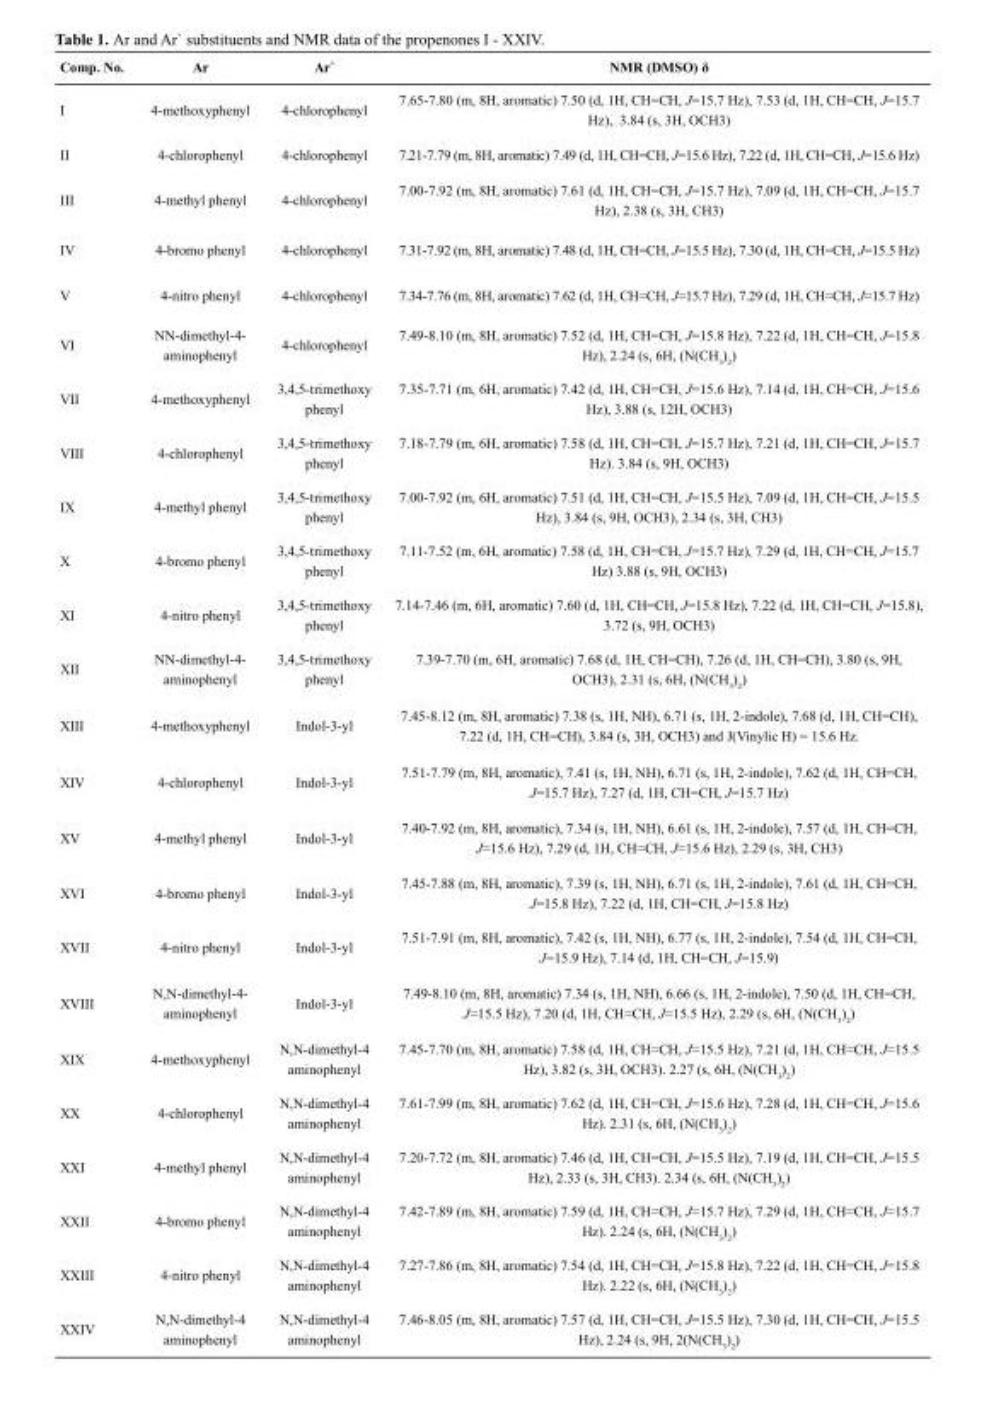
<table><thead><tr><td>Comp. No.</td><td>Ar</td><td>Ar`</td><td>NMR (DMSO) δ</td></tr></thead><tbody><tr><td>I</td><td>4-methoxyphenyl</td><td>4-chlorophenyl</td><td>7.65-7.80 (m, 8H, aromatic) 7.50 (d, 1H, CH=CH, J=15.7 Hz), 7.53 (d, 1H, CH=CH, J=15.7 Hz), 3.84 (s, 3H, OCH3)</td></tr><tr><td>II</td><td>4-chlorophenyl</td><td>4-chlorophenyl</td><td>7.21-7.79 (m, 8H, aromatic) 7.49 (d, 1H, CH=CH, J=15.6 Hz), 7.22 (d, 1H, CH=CH, J=15.6 Hz)</td></tr><tr><td>III</td><td>4-methyl phenyl</td><td>4-chlorophenyl</td><td>7.00-7.92 (m, 8H, aromatic) 7.61 (d, 1H, CH=CH, J=15.7 Hz), 7.09 (d, 1H, CH=CH, J=15.7 Hz), 2.38 (s, 3H, CH3)</td></tr><tr><td>IV</td><td>4-bromo phenyl</td><td>4-chlorophenyl</td><td>7.31-7.92 (m, 8H, aromatic) 7.48 (d, 1H, CH=CH, J=15.5 Hz), 7.30 (d, 1H, CH=CH, J=15.5 Hz)</td></tr><tr><td>V</td><td>4-nitro phenyl</td><td>4-chlorophenyl</td><td>7.34-7.76 (m, 8H, aromatic) 7.62 (d, 1H, CH=CH, J=15.7 Hz), 7.29 (d, 1H, CH=CH, J=15.7 Hz)</td></tr><tr><td>VI</td><td>NN-dimethyl-4- aminophenyl</td><td>4-chlorophenyl</td><td>7.49-8.10 (m, 8H, aromatic) 7.52 (d, 1H, CH=CH, J=15.8 Hz), 7.22 (d, 1H, CH=CH, J=15.8 Hz), 2.24 (s, 6H, (N(CH<sub>3</sub>)<sub>2</sub>)</td></tr><tr><td>VII</td><td>4-methoxyphenyl</td><td>3,4,5-trimethoxy phenyl</td><td>7.35-7.71 (m, 6H, aromatic) 7.42 (d, 1H, CH=CH, J=15.6 Hz), 7.14 (d, 1H, CH=CH, J=15.6 Hz), 3.88 (s, 12H, OCH3)</td></tr><tr><td>VIII</td><td>4-chlorophenyl</td><td>3,4,5-trimethoxy phenyl</td><td>7.18-7.79 (m, 6H, aromatic) 7.58 (d, 1H, CH=CH, J=15.7 Hz), 7.21 (d, 1H, CH=CH, J=15.7 Hz). 3.84 (s, 9H, OCH3)</td></tr><tr><td>IX</td><td>4-methyl phenyl</td><td>3,4,5-trimethoxy phenyl</td><td>7.00-7.92 (m, 6H, aromatic) 7.51 (d, 1H, CH=CH, J=15.5 Hz), 7.09 (d, 1H, CH=CH, J=15.5 Hz), 3.84 (s, 9H, OCH3), 2.34 (s, 3H, CH3)</td></tr><tr><td>X</td><td>4-bromo phenyl</td><td>3,4,5-trimethoxy phenyl</td><td>7.11-7.52 (m, 6H, aromatic) 7.58 (d, 1H, CH=CH, J=15.7 Hz), 7.29 (d, 1H, CH=CH, J=15.7 Hz) 3.88 (s, 9H, OCH3)</td></tr><tr><td>XI</td><td>4-nitro phenyl</td><td>3,4,5-trimethoxy phenyl</td><td>7.14-7.46 (m, 6H, aromatic) 7.60 (d, 1H, CH=CH, J=15.8 Hz), 7.22 (d, 1H, CH=CH, J=15.8), 3.72 (s, 9H, OCH3)</td></tr><tr><td>XII</td><td>NN-dimethyl-4- aminophenyl</td><td>3,4,5-trimethoxy phenyl</td><td>7.39-7.70 (m, 6H, aromatic) 7.68 (d, 1H, CH=CH), 7.26 (d, 1H, CH=CH), 3.80 (s, 9H, OCH3), 2.31 (s, 6H, (N(CH<sub>3</sub>)<sub>2</sub>)</td></tr><tr><td>XIII</td><td>4-methoxyphenyl</td><td>Indol-3-yl</td><td>7.45-8.12 (m, 8H, aromatic) 7.38 (s, 1H, NH), 6.71 (s, 1H, 2-indole), 7.68 (d, 1H, CH=CH), 7.22 (d, 1H, CH=CH), 3.84 (s, 3H, OCH3) and J(Vinylic H) = 15.6 Hz.</td></tr><tr><td>XIV</td><td>4-chlorophenyl</td><td>Indol-3-yl</td><td>7.51-7.79 (m, 8H, aromatic), 7.41 (s, 1H, NH), 6.71 (s, 1H, 2-indole), 7.62 (d, 1H, CH=CH, J=15.7 Hz), 7.27 (d, 1H, CH=CH, J=15.7 Hz)</td></tr><tr><td>XV</td><td>4-methyl phenyl</td><td>Indol-3-yl</td><td>7.40-7.92 (m, 8H, aromatic), 7.34 (s, 1H, NH), 6.61 (s, 1H, 2-indole), 7.57 (d, 1H, CH=CH, J=15.6 Hz), 7.29 (d, 1H, CH=CH, J=15.6 Hz), 2.29 (s, 3H, CH3)</td></tr><tr><td>XVI</td><td>4-bromo phenyl</td><td>Indol-3-yl</td><td>7.45-7.88 (m, 8H, aromatic), 7.39 (s, 1H, NH), 6.71 (s, 1H, 2-indole), 7.61 (d, 1H, CH=CH, J=15.8 Hz), 7.22 (d, 1H, CH=CH, J=15.8 Hz)</td></tr><tr><td>XVII</td><td>4-nitro phenyl</td><td>Indol-3-yl</td><td>7.51-7.91 (m, 8H, aromatic), 7.42 (s, 1H, NH), 6.77 (s, 1H, 2-indole), 7.54 (d, 1H, CH=CH, J=15.9 Hz), 7.14 (d, 1H, CH=CH, J=15.9)</td></tr><tr><td>XVIII</td><td>N,N-dimethyl-4- aminophenyl</td><td>Indol-3-yl</td><td>7.49-8.10 (m, 8H, aromatic) 7.34 (s, 1H, NH), 6.66 (s, 1H, 2-indole), 7.50 (d, 1H, CH=CH, J=15.5 Hz), 7.20 (d, 1H, CH=CH, J=15.5 Hz), 2.29 (s, 6H, (N(CH<sub>3</sub>)<sub>2</sub>)</td></tr><tr><td>XIX</td><td>4-methoxyphenyl</td><td>N,N-dimethyl-4 aminophenyl</td><td>7.45-7.70 (m, 8H, aromatic) 7.58 (d, 1H, CH=CH, J=15.5 Hz), 7.21 (d, 1H, CH=CH, J=15.5 Hz), 3.82 (s, 3H, OCH3). 2.27 (s, 6H, (N(CH<sub>3</sub>)<sub>2</sub>)</td></tr><tr><td>XX</td><td>4-chlorophenyl</td><td>N,N-dimethyl-4 aminophenyl</td><td>7.61-7.99 (m, 8H, aromatic) 7.62 (d, 1H, CH=CH, J=15.6 Hz), 7.28 (d, 1H, CH=CH, J=15.6 Hz). 2.31 (s, 6H, (N(CH<sub>3</sub>)<sub>2</sub>)</td></tr><tr><td>XXI</td><td>4-methyl phenyl</td><td>N,N-dimethyl-4 aminophenyl</td><td>7.20-7.72 (m, 8H, aromatic) 7.46 (d, 1H, CH=CH, J=15.5 Hz), 7.19 (d, 1H, CH=CH, J=15.5 Hz), 2.33 (s, 3H, CH3). 2.34 (s, 6H, (N(CH<sub>3</sub>)<sub>2</sub>)</td></tr><tr><td>XXII</td><td>4-bromo phenyl</td><td>N,N-dimethyl-4 aminophenyl</td><td>7.42-7.89 (m, 8H, aromatic) 7.59 (d, 1H, CH=CH, J=15.7 Hz), 7.29 (d, 1H, CH=CH, J=15.7 Hz). 2.24 (s, 6H, (N(CH<sub>3</sub>)<sub>2</sub>)</td></tr><tr><td>XXIII</td><td>4-nitro phenyl</td><td>N,N-dimethyl-4 aminophenyl</td><td>7.27-7.86 (m, 8H, aromatic) 7.54 (d, 1H, CH=CH, J=15.8 Hz), 7.22 (d, 1H, CH=CH, J=15.8 Hz). 2.22 (s, 6H, (N(CH<sub>3</sub>)<sub>2</sub>)</td></tr><tr><td>XXIV</td><td>N,N-dimethyl-4 aminophenyl</td><td>N,N-dimethyl-4 aminophenyl</td><td>7.46-8.05 (m, 8H, aromatic) 7.57 (d, 1H, CH=CH, J=15.5 Hz), 7.30 (d, 1H, CH=CH, J=15.5 Hz), 2.24 (s, 9H, 2(N(CH<sub>3</sub>)<sub>2</sub>)</td></tr></tbody></table>